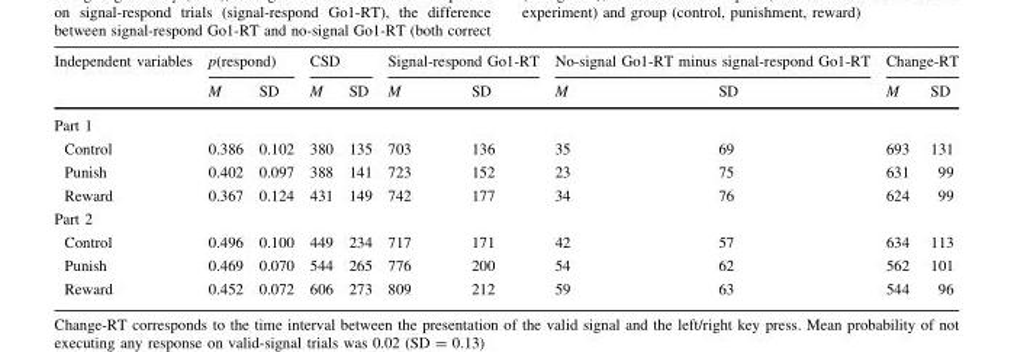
<table><thead><tr><td rowspan="2">Independent variables</td><td colspan="2">p(respond)</td><td colspan="2">CSD</td><td colspan="2">Signal-respond Go1-RT</td><td colspan="2">No-signal Go1-RT minus signal-respond Go1-RT</td><td colspan="2">Change-RT</td></tr><tr><td>M</td><td>SD</td><td>M</td><td>SD</td><td>M</td><td>SD</td><td>M</td><td>SD</td><td>M</td><td>SD</td></tr></thead><tbody><tr><td colspan="11">Part 1</td></tr><tr><td>Control</td><td>0.386</td><td>0.102</td><td>380</td><td>135</td><td>703</td><td>136</td><td>35</td><td>69</td><td>693</td><td>131</td></tr><tr><td>Punish</td><td>0.402</td><td>0.097</td><td>388</td><td>141</td><td>723</td><td>152</td><td>23</td><td>75</td><td>631</td><td>99</td></tr><tr><td>Reward</td><td>0.367</td><td>0.124</td><td>431</td><td>149</td><td>742</td><td>177</td><td>34</td><td>76</td><td>624</td><td>99</td></tr><tr><td colspan="11">Part 2</td></tr><tr><td>Control</td><td>0.496</td><td>0.100</td><td>449</td><td>234</td><td>717</td><td>171</td><td>42</td><td>57</td><td>634</td><td>113</td></tr><tr><td>Punish</td><td>0.469</td><td>0.070</td><td>544</td><td>265</td><td>776</td><td>200</td><td>54</td><td>62</td><td>562</td><td>101</td></tr><tr><td>Reward</td><td>0.452</td><td>0.072</td><td>606</td><td>273</td><td>809</td><td>212</td><td>59</td><td>63</td><td>544</td><td>96</td></tr></tbody></table>